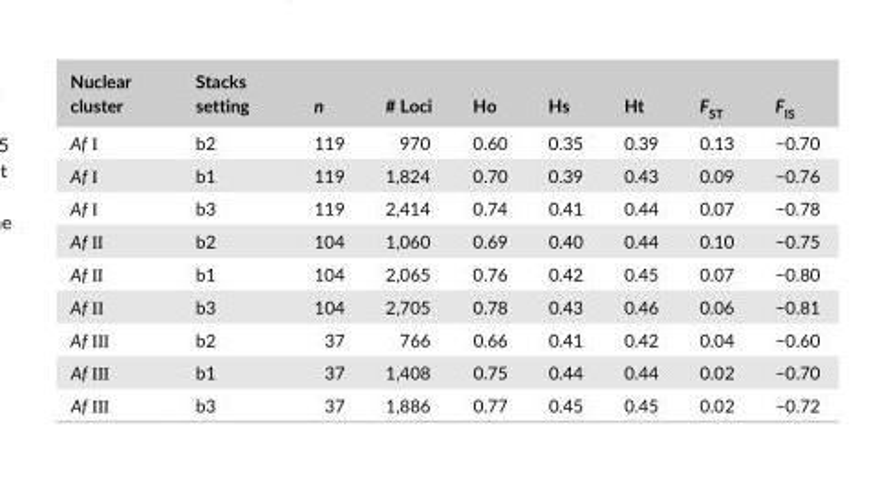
<table><thead><tr><td>Nuclear cluster</td><td>Stacks setting</td><td>n</td><td># Loci</td><td>Ho</td><td>Hs</td><td>Ht</td><td>F<sub>ST</sub></td><td>F<sub>IS</sub></td></tr></thead><tbody><tr><td>Af Ι</td><td>b2</td><td>119</td><td>970</td><td>0.60</td><td>0.35</td><td>0.39</td><td>0.13</td><td>−0.70</td></tr><tr><td>Af Ι</td><td>b1</td><td>119</td><td>1,824</td><td>0.70</td><td>0.39</td><td>0.43</td><td>0.09</td><td>−0.76</td></tr><tr><td>Af Ι</td><td>b3</td><td>119</td><td>2,414</td><td>0.74</td><td>0.41</td><td>0.44</td><td>0.07</td><td>−0.78</td></tr><tr><td>Af ΙΙ</td><td>b2</td><td>104</td><td>1,060</td><td>0.69</td><td>0.40</td><td>0.44</td><td>0.10</td><td>−0.75</td></tr><tr><td>Af ΙΙ</td><td>b1</td><td>104</td><td>2,065</td><td>0.76</td><td>0.42</td><td>0.45</td><td>0.07</td><td>−0.80</td></tr><tr><td>Af ΙΙ</td><td>b3</td><td>104</td><td>2,705</td><td>0.78</td><td>0.43</td><td>0.46</td><td>0.06</td><td>−0.81</td></tr><tr><td>Af ΙΙΙ</td><td>b2</td><td>37</td><td>766</td><td>0.66</td><td>0.41</td><td>0.42</td><td>0.04</td><td>−0.60</td></tr><tr><td>Af ΙΙΙ</td><td>b1</td><td>37</td><td>1,408</td><td>0.75</td><td>0.44</td><td>0.44</td><td>0.02</td><td>−0.70</td></tr><tr><td>Af ΙΙΙ</td><td>b3</td><td>37</td><td>1,886</td><td>0.77</td><td>0.45</td><td>0.45</td><td>0.02</td><td>−0.72</td></tr></tbody></table>